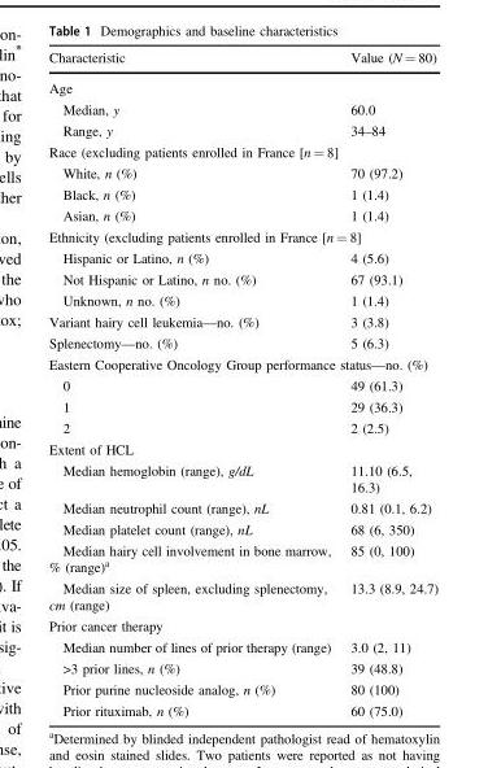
<table><thead><tr><td>Characteristic</td><td>Value (N = 80)</td></tr></thead><tbody><tr><td colspan="2">Age</td></tr><tr><td>Median, y</td><td>60.0</td></tr><tr><td>Range, y</td><td>34–84</td></tr><tr><td colspan="2">Race (excluding patients enrolled in France [n = 8]</td></tr><tr><td>White, n (%)</td><td>70 (97.2)</td></tr><tr><td>Black, n (%)</td><td>1 (1.4)</td></tr><tr><td>Asian, n (%)</td><td>1 (1.4)</td></tr><tr><td colspan="2">Ethnicity (excluding patients enrolled in France [n = 8]</td></tr><tr><td>Hispanic or Latino, n (%)</td><td>4 (5.6)</td></tr><tr><td>Not Hispanic or Latino, n no. (%)</td><td>67 (93.1)</td></tr><tr><td>Unknown, n no. (%)</td><td>1 (1.4)</td></tr><tr><td>Variant hairy cell leukemia—no. (%)</td><td>3 (3.8)</td></tr><tr><td>Splenectomy—no. (%)</td><td>5 (6.3)</td></tr><tr><td colspan="2">Eastern Cooperative Oncology Group performance status—no. (%)</td></tr><tr><td>0</td><td>49 (61.3)</td></tr><tr><td>1</td><td>29 (36.3)</td></tr><tr><td>2</td><td>2 (2.5)</td></tr><tr><td colspan="2">Extent of HCL</td></tr><tr><td>Median hemoglobin (range), g/dL</td><td>11.10 (6.5, 16.3)</td></tr><tr><td>Median neutrophil count (range), nL</td><td>0.81 (0.1, 6.2)</td></tr><tr><td>Median platelet count (range), nL</td><td>68 (6, 350)</td></tr><tr><td>Median hairy cell involvement in bone marrow, % (range)<sup>a</sup></td><td>85 (0, 100)</td></tr><tr><td>Median size of spleen, excluding splenectomy, cm (range)</td><td>13.3 (8.9, 24.7)</td></tr><tr><td colspan="2">Prior cancer therapy</td></tr><tr><td>Median number of lines of prior therapy (range)</td><td>3.0 (2, 11)</td></tr><tr><td>&gt;3 prior lines, n (%)</td><td>39 (48.8)</td></tr><tr><td>Prior purine nucleoside analog, n (%)</td><td>80 (100)</td></tr><tr><td>Prior rituximab, n (%)</td><td>60 (75.0)</td></tr></tbody></table>